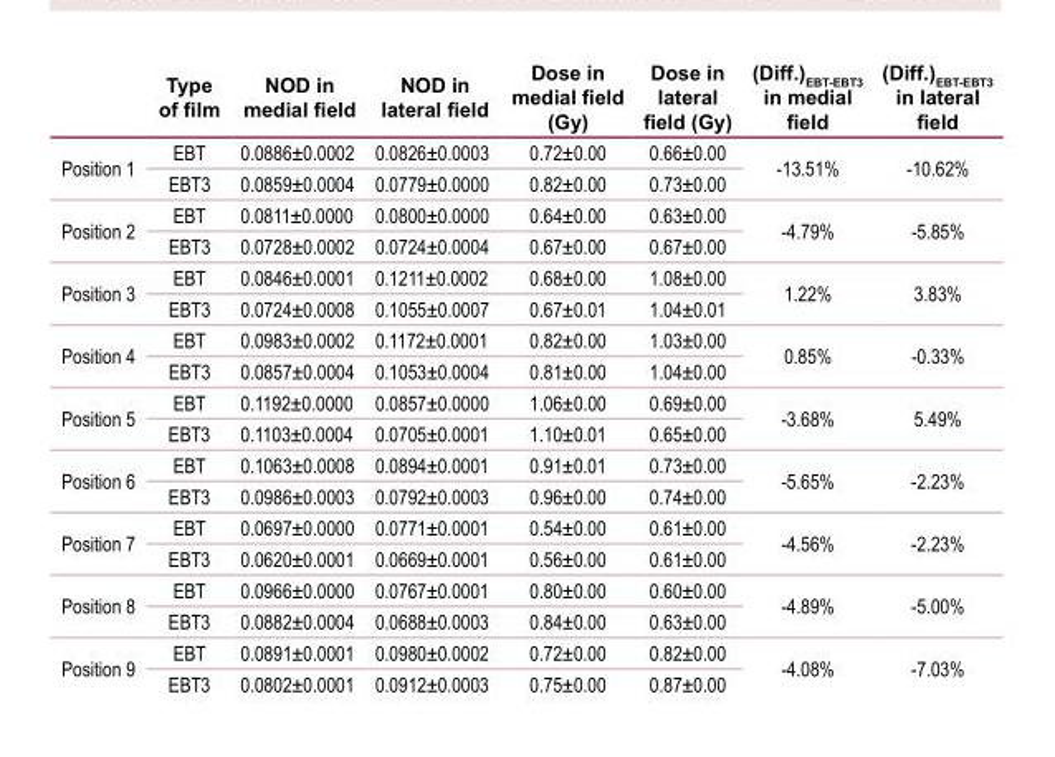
<table><thead><tr><td></td><td>Type of film</td><td>NOD in medial field</td><td>NOD in lateral field</td><td>Dose in medial field (Gy)</td><td>Dose in lateral field (Gy)</td><td>(Diff.)<sub>EBT-EBT3</sub> in medial field</td><td>(Diff.)<sub>EBT-EBT3</sub> in lateral field</td></tr></thead><tbody><tr><td rowspan="2">Position 1</td><td>EBT</td><td>0.0886±0.0002</td><td>0.0826±0.0003</td><td>0.72±0.00</td><td>0.66±0.00</td><td rowspan="2">-13.51%</td><td rowspan="2">-10.62%</td></tr><tr><td>EBT3</td><td>0.0859±0.0004</td><td>0.0779±0.0000</td><td>0.82±0.00</td><td>0.73±0.00</td></tr><tr><td rowspan="2">Position 2</td><td>EBT</td><td>0.0811±0.0000</td><td>0.0800±0.0000</td><td>0.64±0.00</td><td>0.63±0.00</td><td rowspan="2">-4.79%</td><td rowspan="2">-5.85%</td></tr><tr><td>EBT3</td><td>0.0728±0.0002</td><td>0.0724±0.0004</td><td>0.67±0.00</td><td>0.67±0.00</td></tr><tr><td rowspan="2">Position 3</td><td>EBT</td><td>0.0846±0.0001</td><td>0.1211±0.0002</td><td>0.68±0.00</td><td>1.08±0.00</td><td rowspan="2">1.22%</td><td rowspan="2">3.83%</td></tr><tr><td>EBT3</td><td>0.0724±0.0008</td><td>0.1055±0.0007</td><td>0.67±0.01</td><td>1.04±0.01</td></tr><tr><td rowspan="2">Position 4</td><td>EBT</td><td>0.0983±0.0002</td><td>0.1172±0.0001</td><td>0.82±0.00</td><td>1.03±0.00</td><td rowspan="2">0.85%</td><td rowspan="2">-0.33%</td></tr><tr><td>EBT3</td><td>0.0857±0.0004</td><td>0.1053±0.0004</td><td>0.81±0.00</td><td>1.04±0.00</td></tr><tr><td rowspan="2">Position 5</td><td>EBT</td><td>0.1192±0.0000</td><td>0.0857±0.0000</td><td>1.06±0.00</td><td>0.69±0.00</td><td rowspan="2">-3.68%</td><td rowspan="2">5.49%</td></tr><tr><td>EBT3</td><td>0.1103±0.0004</td><td>0.0705±0.0001</td><td>1.10±0.01</td><td>0.65±0.00</td></tr><tr><td rowspan="2">Position 6</td><td>EBT</td><td>0.1063±0.0008</td><td>0.0894±0.0001</td><td>0.91±0.01</td><td>0.73±0.00</td><td rowspan="2">-5.65%</td><td rowspan="2">-2.23%</td></tr><tr><td>EBT3</td><td>0.0986±0.0003</td><td>0.0792±0.0003</td><td>0.96±0.00</td><td>0.74±0.00</td></tr><tr><td rowspan="2">Position 7</td><td>EBT</td><td>0.0697±0.0000</td><td>0.0771±0.0001</td><td>0.54±0.00</td><td>0.61±0.00</td><td rowspan="2">-4.56%</td><td rowspan="2">-2.23%</td></tr><tr><td>EBT3</td><td>0.0620±0.0001</td><td>0.0669±0.0001</td><td>0.56±0.00</td><td>0.61±0.00</td></tr><tr><td rowspan="2">Position 8</td><td>EBT</td><td>0.0966±0.0000</td><td>0.0767±0.0001</td><td>0.80±0.00</td><td>0.60±0.00</td><td rowspan="2">-4.89%</td><td rowspan="2">-5.00%</td></tr><tr><td>EBT3</td><td>0.0882±0.0004</td><td>0.0688±0.0003</td><td>0.84±0.00</td><td>0.63±0.00</td></tr><tr><td rowspan="2">Position 9</td><td>EBT</td><td>0.0891±0.0001</td><td>0.0980±0.0002</td><td>0.72±0.00</td><td>0.82±0.00</td><td rowspan="2">-4.08%</td><td rowspan="2">-7.03%</td></tr><tr><td>EBT3</td><td>0.0802±0.0001</td><td>0.0912±0.0003</td><td>0.75±0.00</td><td>0.87±0.00</td></tr></tbody></table>